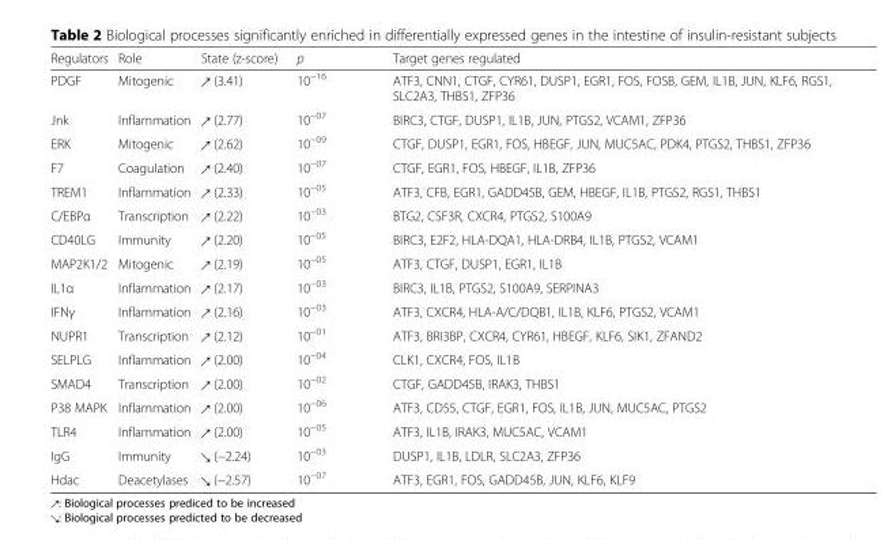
<table><thead><tr><td>Regulators</td><td>Role</td><td>State (z-score)</td><td>p</td><td>Target genes regulated</td></tr></thead><tbody><tr><td>PDGF</td><td>Mitogenic</td><td>↗ (3.41)</td><td>10<sup>−16</sup></td><td>ATF3, CNN1, CTGF, CYR61, DUSP1, EGR1, FOS, FOSB, GEM, IL1B, JUN, KLF6, RGS1, SLC2A3, THBS1, ZFP36</td></tr><tr><td>Jnk</td><td>Inflammation</td><td>↗ (2.77)</td><td>10<sup>−07</sup></td><td>BIRC3, CTGF, DUSP1, IL1B, JUN, PTGS2, VCAM1, ZFP36</td></tr><tr><td>ERK</td><td>Mitogenic</td><td>↗ (2.62)</td><td>10<sup>−09</sup></td><td>CTGF, DUSP1, EGR1, FOS, HBEGF, JUN, MUC5AC, PDK4, PTGS2, THBS1, ZFP36</td></tr><tr><td>F7</td><td>Coagulation</td><td>↗ (2.40)</td><td>10<sup>−07</sup></td><td>CTGF, EGR1, FOS, HBEGF, IL1B, ZFP36</td></tr><tr><td>TREM1</td><td>Inflammation</td><td>↗ (2.33)</td><td>10<sup>−05</sup></td><td>ATF3, CFB, EGR1, GADD45B, GEM, HBEGF, IL1B, PTGS2, RGS1, THBS1</td></tr><tr><td>C/EBPα</td><td>Transcription</td><td>↗ (2.22)</td><td>10<sup>−03</sup></td><td>BTG2, CSF3R, CXCR4, PTGS2, S100A9</td></tr><tr><td>CD40LG</td><td>Immunity</td><td>↗ (2.20)</td><td>10<sup>−05</sup></td><td>BIRC3, E2F2, HLA-DQA1, HLA-DRB4, IL1B, PTGS2, VCAM1</td></tr><tr><td>MAP2K1/2</td><td>Mitogenic</td><td>↗ (2.19)</td><td>10<sup>−05</sup></td><td>ATF3, CTGF, DUSP1, EGR1, IL1B</td></tr><tr><td>IL1α</td><td>Inflammation</td><td>↗ (2.17)</td><td>10<sup>−03</sup></td><td>BIRC3, IL1B, PTGS2, S100A9, SERPINA3</td></tr><tr><td>IFNγ</td><td>Inflammation</td><td>↗ (2.16)</td><td>10<sup>−03</sup></td><td>ATF3, CXCR4, HLA-A/C/DQB1, IL1B, KLF6, PTGS2, VCAM1</td></tr><tr><td>NUPR1</td><td>Transcription</td><td>↗ (2.12)</td><td>10<sup>−01</sup></td><td>ATF3, BRI3BP, CXCR4, CYR61, HBEGF, KLF6, SIK1, ZFAND2</td></tr><tr><td>SELPLG</td><td>Inflammation</td><td>↗ (2.00)</td><td>10<sup>−04</sup></td><td>CLK1, CXCR4, FOS, IL1B</td></tr><tr><td>SMAD4</td><td>Transcription</td><td>↗ (2.00)</td><td>10<sup>−02</sup></td><td>CTGF, GADD45B, IRAK3, THBS1</td></tr><tr><td>P38 MAPK</td><td>Inflammation</td><td>↗ (2.00)</td><td>10<sup>−06</sup></td><td>ATF3, CD55, CTGF, EGR1, FOS, IL1B, JUN, MUC5AC, PTGS2</td></tr><tr><td>TLR4</td><td>Inflammation</td><td>↗ (2.00)</td><td>10<sup>−05</sup></td><td>ATF3, IL1B, IRAK3, MUC5AC, VCAM1</td></tr><tr><td>IgG</td><td>Immunity</td><td>↘ (−2.24)</td><td>10<sup>−03</sup></td><td>DUSP1, IL1B, LDLR, SLC2A3, ZFP36</td></tr><tr><td>Hdac</td><td>Deacetylases</td><td>↘ (−2.57)</td><td>10<sup>−07</sup></td><td>ATF3, EGR1, FOS, GADD45B, JUN, KLF6, KLF9</td></tr></tbody></table>